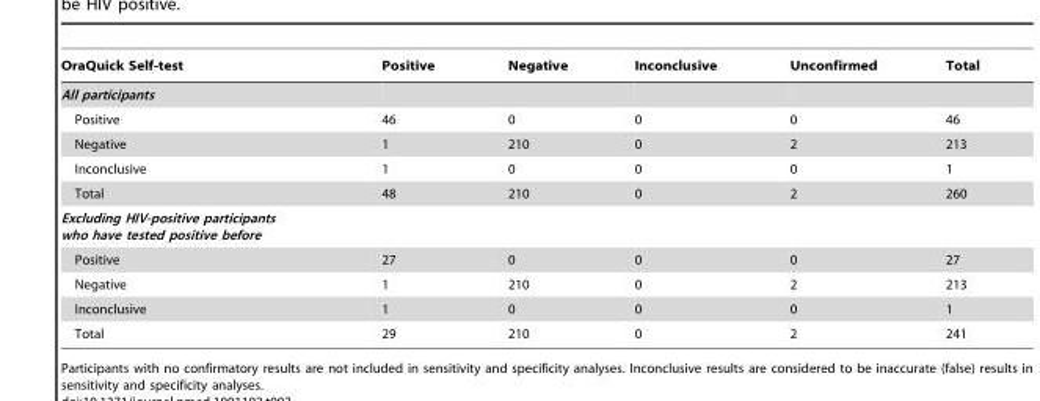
<table><thead><tr><td>OraQuick Self-test</td><td>Positive</td><td>Negative</td><td>Inconclusive</td><td>Unconfirmed</td><td>Total</td></tr></thead><tbody><tr><td colspan="6">All participants</td></tr><tr><td>Positive</td><td>46</td><td>0</td><td>0</td><td>0</td><td>46</td></tr><tr><td>Negative</td><td>1</td><td>210</td><td>0</td><td>2</td><td>213</td></tr><tr><td>Inconclusive</td><td>1</td><td>0</td><td>0</td><td>0</td><td>1</td></tr><tr><td>Total</td><td>48</td><td>210</td><td>0</td><td>2</td><td>260</td></tr><tr><td colspan="6">Excluding HIV-positive participants who have tested positive before</td></tr><tr><td>Positive</td><td>27</td><td>0</td><td>0</td><td>0</td><td>27</td></tr><tr><td>Negative</td><td>1</td><td>210</td><td>0</td><td>2</td><td>213</td></tr><tr><td>Inconclusive</td><td>1</td><td>0</td><td>0</td><td>0</td><td>1</td></tr><tr><td>Total</td><td>29</td><td>210</td><td>0</td><td>2</td><td>241</td></tr></tbody></table>